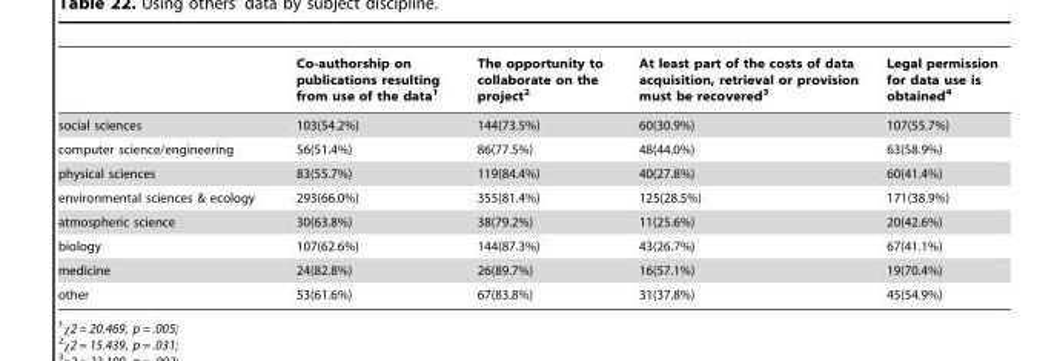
<table><thead><tr><td></td><td>Co-authorship on publications resulting from use of the data<sup>1</sup></td><td>The opportunity to collaborate on the project<sup>2</sup></td><td>At least part of the costs of data acquisition, retrieval or provision must be recovered<sup>3</sup></td><td>Legal permission for data use is obtained<sup>4</sup></td></tr></thead><tbody><tr><td>social sciences</td><td>103(54.2%)</td><td>144(73.5%)</td><td>60(30.9%)</td><td>107(55.7%)</td></tr><tr><td>computer science/engineering</td><td>56(51.4%)</td><td>86(77.5%)</td><td>48(44.0%)</td><td>63(58.9%)</td></tr><tr><td>physical sciences</td><td>83(55.7%)</td><td>119(84.4%)</td><td>40(27.8%)</td><td>60(41.4%)</td></tr><tr><td>environmental sciences &amp; ecology</td><td>293(66.0%)</td><td>355(81.4%)</td><td>125(28.5%)</td><td>171(38.9%)</td></tr><tr><td>atmospheric science</td><td>30(63.8%)</td><td>38(79.2%)</td><td>11(25.6%)</td><td>20(42.6%)</td></tr><tr><td>biology</td><td>107(62.6%)</td><td>144(87.3%)</td><td>43(26.7%)</td><td>67(41.1%)</td></tr><tr><td>medicine</td><td>24(82.8%)</td><td>26(89.7%)</td><td>16(57.1%)</td><td>19(70.4%)</td></tr><tr><td>other</td><td>53(61.6%)</td><td>67(83.8%)</td><td>31(37.8%)</td><td>45(54.9%)</td></tr></tbody></table>